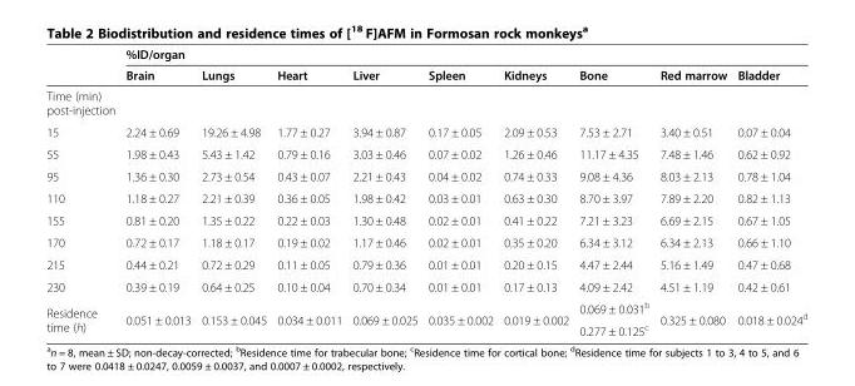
<table><thead><tr><td rowspan="2"></td><td colspan="9">%ID/organ</td></tr><tr><td>Brain</td><td>Lungs</td><td>Heart</td><td>Liver</td><td>Spleen</td><td>Kidneys</td><td>Bone</td><td>Red marrow</td><td>Bladder</td></tr></thead><tbody><tr><td colspan="10">Time (min) post-injection</td></tr><tr><td>15</td><td>2.24 ± 0.69</td><td>19.26 ± 4.98</td><td>1.77 ± 0.27</td><td>3.94 ± 0.87</td><td>0.17 ± 0.05</td><td>2.09 ± 0.53</td><td>7.53 ± 2.71</td><td>3.40 ± 0.51</td><td>0.07 ± 0.04</td></tr><tr><td>55</td><td>1.98 ± 0.43</td><td>5.43 ± 1.42</td><td>0.79 ± 0.16</td><td>3.03 ± 0.46</td><td>0.07 ± 0.02</td><td>1.26 ± 0.46</td><td>11.17 ± 4.35</td><td>7.48 ± 1.46</td><td>0.62 ± 0.92</td></tr><tr><td>95</td><td>1.36 ± 0.30</td><td>2.73 ± 0.54</td><td>0.43 ± 0.07</td><td>2.21 ± 0.43</td><td>0.04 ± 0.02</td><td>0.74 ± 0.33</td><td>9.08 ± 4.36</td><td>8.03 ± 2.13</td><td>0.78 ± 1.04</td></tr><tr><td>110</td><td>1.18 ± 0.27</td><td>2.21 ± 0.39</td><td>0.36 ± 0.05</td><td>1.98 ± 0.42</td><td>0.03 ± 0.01</td><td>0.63 ± 0.30</td><td>8.70 ± 3.97</td><td>7.89 ± 2.20</td><td>0.82 ± 1.13</td></tr><tr><td>155</td><td>0.81 ± 0.20</td><td>1.35 ± 0.22</td><td>0.22 ± 0.03</td><td>1.30 ± 0.48</td><td>0.02 ± 0.01</td><td>0.41 ± 0.22</td><td>7.21 ± 3.23</td><td>6.69 ± 2.15</td><td>0.67 ± 1.05</td></tr><tr><td>170</td><td>0.72 ± 0.17</td><td>1.18 ± 0.17</td><td>0.19 ± 0.02</td><td>1.17 ± 0.46</td><td>0.02 ± 0.01</td><td>0.35 ± 0.20</td><td>6.34 ± 3.12</td><td>6.34 ± 2.13</td><td>0.66 ± 1.10</td></tr><tr><td>215</td><td>0.44 ± 0.21</td><td>0.72 ± 0.29</td><td>0.11 ± 0.05</td><td>0.79 ± 0.36</td><td>0.01 ± 0.01</td><td>0.20 ± 0.15</td><td>4.47 ± 2.44</td><td>5.16 ± 1.49</td><td>0.47 ± 0.68</td></tr><tr><td>230</td><td>0.39 ± 0.19</td><td>0.64 ± 0.25</td><td>0.10 ± 0.04</td><td>0.70 ± 0.34</td><td>0.01 ± 0.01</td><td>0.17 ± 0.13</td><td>4.09 ± 2.42</td><td>4.51 ± 1.19</td><td>0.42 ± 0.61</td></tr><tr><td rowspan="2">Residence time (h)</td><td rowspan="2">0.051 ± 0.013</td><td rowspan="2">0.153 ± 0.045</td><td rowspan="2">0.034 ± 0.011</td><td rowspan="2">0.069 ± 0.025</td><td rowspan="2">0.035 ± 0.002</td><td rowspan="2">0.019 ± 0.002</td><td>0.069 ± 0.031<sup>b</sup></td><td rowspan="2">0.325 ± 0.080</td><td rowspan="2">0.018 ± 0.024<sup>d</sup></td></tr><tr><td>0.277 ± 0.125<sup>c</sup></td></tr></tbody></table>